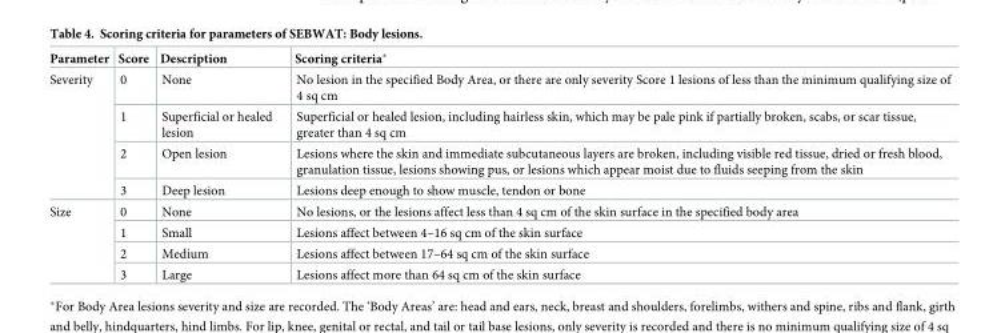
<table><thead><tr><td>Parameter</td><td>Score</td><td>Description</td><td>Scoring criteria*</td></tr></thead><tbody><tr><td rowspan="4">Severity</td><td>0</td><td>None</td><td>No lesion in the specified Body Area, or there are only severity Score 1 lesions of less than the minimum qualifying size of 4 sq cm</td></tr><tr><td>1</td><td>Superficial or healed lesion</td><td>Superficial or healed lesion, including hairless skin, which may be pale pink if partially broken, scabs, or scar tissue, greater than 4 sq cm</td></tr><tr><td>2</td><td>Open lesion</td><td>Lesions where the skin and immediate subcutaneous layers are broken, including visible red tissue, dried or fresh blood, granulation tissue, lesions showing pus, or lesions which appear moist due to fluids seeping from the skin</td></tr><tr><td>3</td><td>Deep lesion</td><td>Lesions deep enough to show muscle, tendon or bone</td></tr><tr><td rowspan="4">Size</td><td>0</td><td>None</td><td>No lesions, or the lesions affect less than 4 sq cm of the skin surface in the specified body area</td></tr><tr><td>1</td><td>Small</td><td>Lesions affect between 4–16 sq cm of the skin surface</td></tr><tr><td>2</td><td>Medium</td><td>Lesions affect between 17–64 sq cm of the skin surface</td></tr><tr><td>3</td><td>Large</td><td>Lesions affect more than 64 sq cm of the skin surface</td></tr></tbody></table>